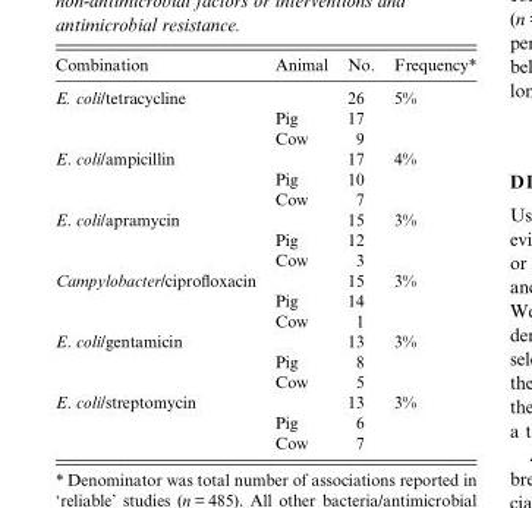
<table><thead><tr><td>Combination</td><td>Animal</td><td>No.</td><td>Frequency*</td></tr></thead><tbody><tr><td rowspan="3">E. coli/tetracycline</td><td></td><td>26</td><td>5%</td></tr><tr><td>Pig</td><td>17</td><td></td></tr><tr><td>Cow</td><td>9</td><td></td></tr><tr><td rowspan="3">E. coli/ampicillin</td><td></td><td>17</td><td>4%</td></tr><tr><td>Pig</td><td>10</td><td></td></tr><tr><td>Cow</td><td>7</td><td></td></tr><tr><td rowspan="3">E. coli/apramycin</td><td></td><td>15</td><td>3%</td></tr><tr><td>Pig</td><td>12</td><td></td></tr><tr><td>Cow</td><td>3</td><td></td></tr><tr><td rowspan="3">Campylobacter/ciprofloxacin</td><td></td><td>15</td><td>3%</td></tr><tr><td>Pig</td><td>14</td><td></td></tr><tr><td>Cow</td><td>1</td><td></td></tr><tr><td rowspan="3">E. coli/gentamicin</td><td></td><td>13</td><td>3%</td></tr><tr><td>Pig</td><td>8</td><td></td></tr><tr><td>Cow</td><td>5</td><td></td></tr><tr><td rowspan="3">E. coli/streptomycin</td><td></td><td>13</td><td>3%</td></tr><tr><td>Pig</td><td>6</td><td></td></tr><tr><td>Cow</td><td>7</td><td></td></tr></tbody></table>